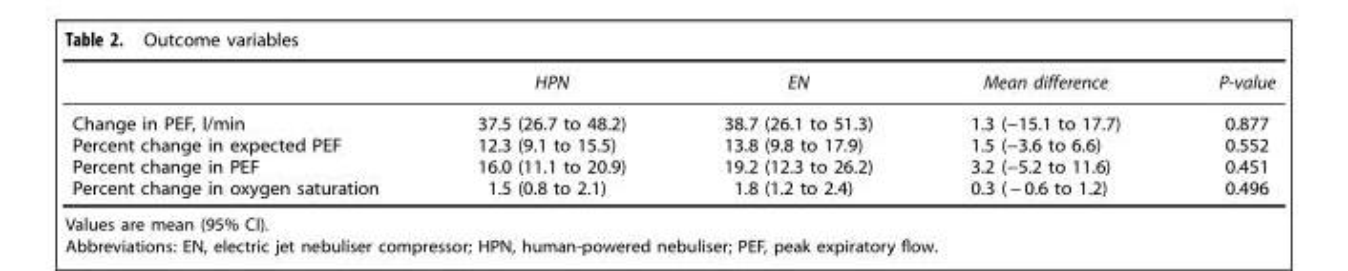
<table><thead><tr><td></td><td>HPN</td><td>EN</td><td>Mean difference</td><td>P-value</td></tr></thead><tbody><tr><td>Change in PEF, l/min</td><td>37.5 (26.7 to 48.2)</td><td>38.7 (26.1 to 51.3)</td><td>1.3 (−15.1 to 17.7)</td><td>0.877</td></tr><tr><td>Percent change in expected PEF</td><td>12.3 (9.1 to 15.5)</td><td>13.8 (9.8 to 17.9)</td><td>1.5 (−3.6 to 6.6)</td><td>0.552</td></tr><tr><td>Percent change in PEF</td><td>16.0 (11.1 to 20.9)</td><td>19.2 (12.3 to 26.2)</td><td>3.2 (−5.2 to 11.6)</td><td>0.451</td></tr><tr><td>Percent change in oxygen saturation</td><td>1.5 (0.8 to 2.1)</td><td>1.8 (1.2 to 2.4)</td><td>0.3 ( − 0.6 to 1.2)</td><td>0.496</td></tr></tbody></table>